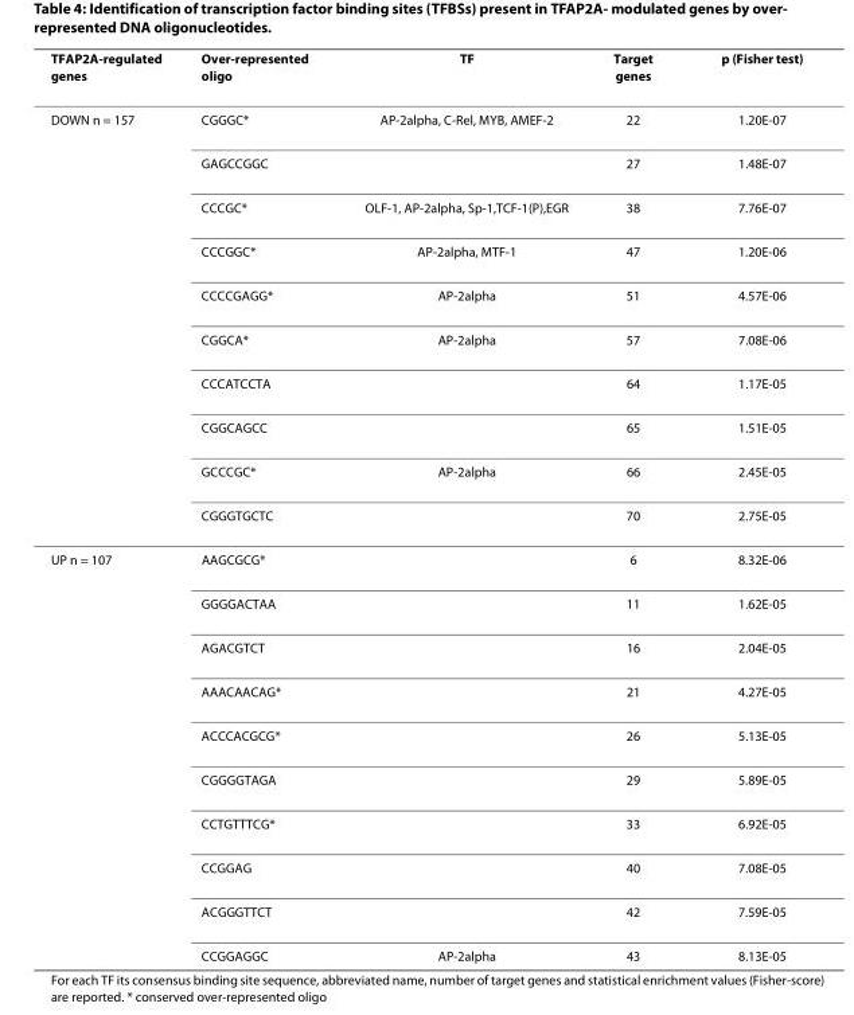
<table><thead><tr><td>TFAP2A-regulated genes</td><td>Over-represented oligo</td><td>TF</td><td>Target genes</td><td>p (Fisher test)</td></tr></thead><tbody><tr><td rowspan="10">DOWN n = 157</td><td>CGGGC*</td><td>AP-2alpha, C-Rel, MYB, AMEF-2</td><td>22</td><td>1.20E-07</td></tr><tr><td>GAGCCGGC</td><td></td><td>27</td><td>1.48E-07</td></tr><tr><td>CCCGC*</td><td>OLF-1, AP-2alpha, Sp-1,TCF-1(P),EGR</td><td>38</td><td>7.76E-07</td></tr><tr><td>CCCGGC*</td><td>AP-2alpha, MTF-1</td><td>47</td><td>1.20E-06</td></tr><tr><td>CCCCGAGG*</td><td>AP-2alpha</td><td>51</td><td>4.57E-06</td></tr><tr><td>CGGCA*</td><td>AP-2alpha</td><td>57</td><td>7.08E-06</td></tr><tr><td>CCCATCCTA</td><td></td><td>64</td><td>1.17E-05</td></tr><tr><td>CGGCAGCC</td><td></td><td>65</td><td>1.51E-05</td></tr><tr><td>GCCCGC*</td><td>AP-2alpha</td><td>66</td><td>2.45E-05</td></tr><tr><td>CGGGTGCTC</td><td></td><td>70</td><td>2.75E-05</td></tr><tr><td rowspan="10">UP n = 107</td><td>AAGCGCG*</td><td></td><td>6</td><td>8.32E-06</td></tr><tr><td>GGGGACTAA</td><td></td><td>11</td><td>1.62E-05</td></tr><tr><td>AGACGTCT</td><td></td><td>16</td><td>2.04E-05</td></tr><tr><td>AAACAACAG*</td><td></td><td>21</td><td>4.27E-05</td></tr><tr><td>ACCCACGCG*</td><td></td><td>26</td><td>5.13E-05</td></tr><tr><td>CGGGGTAGA</td><td></td><td>29</td><td>5.89E-05</td></tr><tr><td>CCTGTTTCG*</td><td></td><td>33</td><td>6.92E-05</td></tr><tr><td>CCGGAG</td><td></td><td>40</td><td>7.08E-05</td></tr><tr><td>ACGGGTTCT</td><td></td><td>42</td><td>7.59E-05</td></tr><tr><td>CCGGAGGC</td><td>AP-2alpha</td><td>43</td><td>8.13E-05</td></tr></tbody></table>